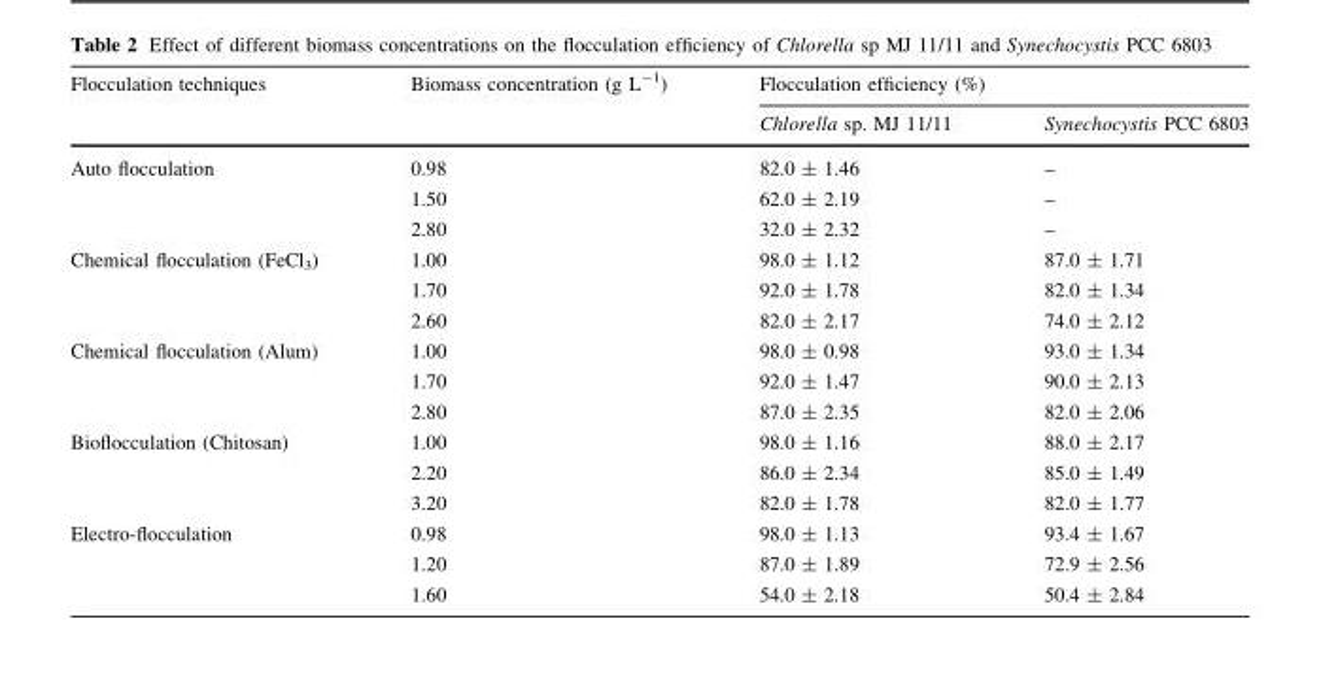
<table><thead><tr><td rowspan="2">Flocculation techniques</td><td rowspan="2">Biomass concentration (g L<sup>-1</sup>)</td><td colspan="2">Flocculation efficiency (%)</td></tr><tr><td>Chlorella sp. MJ 11/11</td><td>Synechocystis PCC 6803</td></tr></thead><tbody><tr><td rowspan="3">Auto flocculation</td><td>0.98</td><td>82.0 ± 1.46</td><td>–</td></tr><tr><td>1.50</td><td>62.0 ± 2.19</td><td>–</td></tr><tr><td>2.80</td><td>32.0 ± 2.32</td><td>–</td></tr><tr><td rowspan="3">Chemical flocculation (FeCl<sub>3</sub>)</td><td>1.00</td><td>98.0 ± 1.12</td><td>87.0 ± 1.71</td></tr><tr><td>1.70</td><td>92.0 ± 1.78</td><td>82.0 ± 1.34</td></tr><tr><td>2.60</td><td>82.0 ± 2.17</td><td>74.0 ± 2.12</td></tr><tr><td rowspan="3">Chemical flocculation (Alum)</td><td>1.00</td><td>98.0 ± 0.98</td><td>93.0 ± 1.34</td></tr><tr><td>1.70</td><td>92.0 ± 1.47</td><td>90.0 ± 2.13</td></tr><tr><td>2.80</td><td>87.0 ± 2.35</td><td>82.0 ± 2.06</td></tr><tr><td rowspan="3">Bioflocculation (Chitosan)</td><td>1.00</td><td>98.0 ± 1.16</td><td>88.0 ± 2.17</td></tr><tr><td>2.20</td><td>86.0 ± 2.34</td><td>85.0 ± 1.49</td></tr><tr><td>3.20</td><td>82.0 ± 1.78</td><td>82.0 ± 1.77</td></tr><tr><td rowspan="3">Electro-flocculation</td><td>0.98</td><td>98.0 ± 1.13</td><td>93.4 ± 1.67</td></tr><tr><td>1.20</td><td>87.0 ± 1.89</td><td>72.9 ± 2.56</td></tr><tr><td>1.60</td><td>54.0 ± 2.18</td><td>50.4 ± 2.84</td></tr></tbody></table>